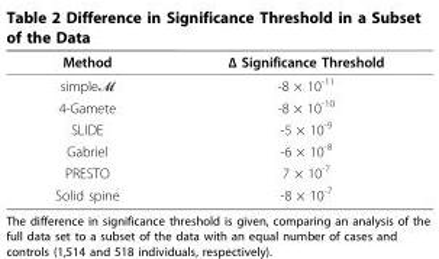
<table><thead><tr><td>Method</td><td>Δ Significance Threshold</td></tr></thead><tbody><tr><td>simpleℳ</td><td>-8 × 10<sup>-11</sup></td></tr><tr><td>4-Gamete</td><td>-8 × 10<sup>-10</sup></td></tr><tr><td>SLIDE</td><td>-5 × 10<sup>-9</sup></td></tr><tr><td>Gabriel</td><td>-6 × 10<sup>-8</sup></td></tr><tr><td>PRESTO</td><td>7 × 10<sup>-7</sup></td></tr><tr><td>Solid spine</td><td>-8 × 10<sup>-7</sup></td></tr></tbody></table>